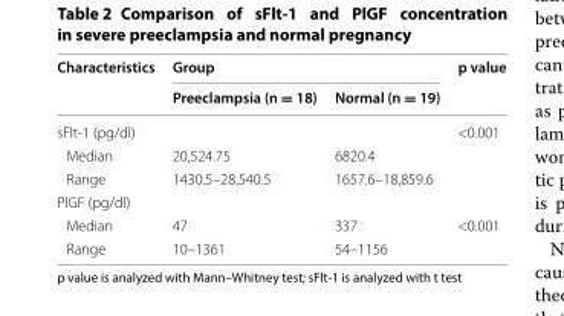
<table><thead><tr><td rowspan="2">Characteristics</td><td colspan="2">Group</td><td rowspan="2">p value</td></tr><tr><td>Preeclampsia (n = 18)</td><td>Normal (n = 19)</td></tr></thead><tbody><tr><td>sFlt-1 (pg/dl)</td><td></td><td></td><td>&lt;0.001</td></tr><tr><td>Median</td><td>20,524.75</td><td>6820.4</td><td></td></tr><tr><td>Range</td><td>1430.5–28,540.5</td><td>1657.6–18,859.6</td><td></td></tr><tr><td colspan="4">PlGF (pg/dl)</td></tr><tr><td>Median</td><td>47</td><td>337</td><td>&lt;0.001</td></tr><tr><td>Range</td><td>10–1361</td><td>54–1156</td><td></td></tr></tbody></table>